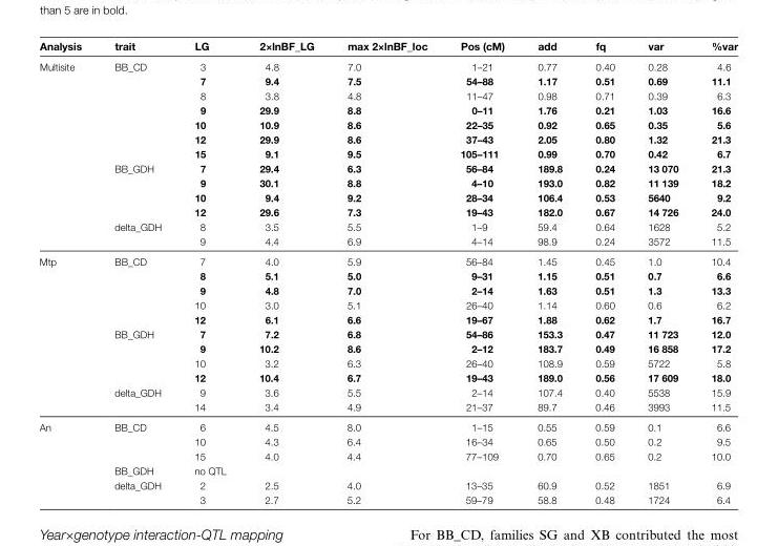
<table><thead><tr><td>Analysis</td><td>trait</td><td>LG</td><td>2×lnBF_LG</td><td>max 2×lnBF_loc</td><td>Pos (cM)</td><td>add</td><td>fq</td><td>var</td><td>%var</td></tr></thead><tbody><tr><td rowspan="13">Multisite</td><td rowspan="7">BB_CD</td><td>3</td><td>4.8</td><td>7.0</td><td>1–21</td><td>0.77</td><td>0.40</td><td>0.28</td><td>4.6</td></tr><tr><td>7</td><td>9.4</td><td>7.5</td><td>54–88</td><td>1.17</td><td>0.51</td><td>0.69</td><td>11.1</td></tr><tr><td>8</td><td>3.8</td><td>4.8</td><td>11–47</td><td>0.98</td><td>0.71</td><td>0.39</td><td>6.3</td></tr><tr><td>9</td><td>29.9</td><td>8.8</td><td>0–11</td><td>1.76</td><td>0.21</td><td>1.03</td><td>16.6</td></tr><tr><td>10</td><td>10.9</td><td>8.6</td><td>22–35</td><td>0.92</td><td>0.65</td><td>0.35</td><td>5.6</td></tr><tr><td>12</td><td>29.9</td><td>8.6</td><td>37–43</td><td>2.05</td><td>0.80</td><td>1.32</td><td>21.3</td></tr><tr><td>15</td><td>9.1</td><td>9.5</td><td>105–111</td><td>0.99</td><td>0.70</td><td>0.42</td><td>6.7</td></tr><tr><td rowspan="4">BB_GDH</td><td>7</td><td>29.4</td><td>6.3</td><td>56–84</td><td>189.8</td><td>0.24</td><td>13 070</td><td>21.3</td></tr><tr><td>9</td><td>30.1</td><td>8.8</td><td>4–10</td><td>193.0</td><td>0.82</td><td>11 139</td><td>18.2</td></tr><tr><td>10</td><td>9.4</td><td>9.2</td><td>28–34</td><td>106.4</td><td>0.53</td><td>5640</td><td>9.2</td></tr><tr><td>12</td><td>29.6</td><td>7.3</td><td>19–43</td><td>182.0</td><td>0.67</td><td>14 726</td><td>24.0</td></tr><tr><td rowspan="2">delta_GDH</td><td>8</td><td>3.5</td><td>5.5</td><td>1–9</td><td>59.4</td><td>0.64</td><td>1628</td><td>5.2</td></tr><tr><td>9</td><td>4.4</td><td>6.9</td><td>4–14</td><td>98.9</td><td>0.24</td><td>3572</td><td>11.5</td></tr><tr><td rowspan="11">Mtp</td><td rowspan="5">BB_CD</td><td>7</td><td>4.0</td><td>5.9</td><td>56–84</td><td>1.45</td><td>0.45</td><td>1.0</td><td>10.4</td></tr><tr><td>8</td><td>5.1</td><td>5.0</td><td>9–31</td><td>1.15</td><td>0.51</td><td>0.7</td><td>6.6</td></tr><tr><td>9</td><td>4.8</td><td>7.0</td><td>2–14</td><td>1.63</td><td>0.51</td><td>1.3</td><td>13.3</td></tr><tr><td>10</td><td>3.0</td><td>5.1</td><td>26–40</td><td>1.14</td><td>0.60</td><td>0.6</td><td>6.2</td></tr><tr><td>12</td><td>6.1</td><td>6.6</td><td>19–67</td><td>1.88</td><td>0.62</td><td>1.7</td><td>16.7</td></tr><tr><td rowspan="4">BB_GDH</td><td>7</td><td>7.2</td><td>6.8</td><td>54–86</td><td>153.3</td><td>0.47</td><td>11 723</td><td>12.0</td></tr><tr><td>9</td><td>10.2</td><td>8.6</td><td>2–12</td><td>183.7</td><td>0.49</td><td>16 858</td><td>17.2</td></tr><tr><td>10</td><td>3.2</td><td>6.3</td><td>26–40</td><td>108.9</td><td>0.59</td><td>5722</td><td>5.8</td></tr><tr><td>12</td><td>10.4</td><td>6.7</td><td>19–43</td><td>189.0</td><td>0.56</td><td>17 609</td><td>18.0</td></tr><tr><td rowspan="2">delta_GDH</td><td>9</td><td>3.6</td><td>5.5</td><td>2–14</td><td>107.4</td><td>0.40</td><td>5538</td><td>15.9</td></tr><tr><td>14</td><td>3.4</td><td>4.9</td><td>21–37</td><td>89.7</td><td>0.46</td><td>3993</td><td>11.5</td></tr><tr><td rowspan="6">An</td><td rowspan="3">BB_CD</td><td>6</td><td>4.5</td><td>8.0</td><td>1–15</td><td>0.55</td><td>0.59</td><td>0.1</td><td>6.6</td></tr><tr><td>10</td><td>4.3</td><td>6.4</td><td>16–34</td><td>0.65</td><td>0.50</td><td>0.2</td><td>9.5</td></tr><tr><td>15</td><td>4.0</td><td>4.4</td><td>77–109</td><td>0.70</td><td>0.65</td><td>0.2</td><td>10.0</td></tr><tr><td>BB_GDH</td><td>no QTL</td><td></td><td></td><td></td><td></td><td></td><td></td><td></td></tr><tr><td rowspan="2">delta_GDH</td><td>2</td><td>2.5</td><td>4.0</td><td>13–35</td><td>60.9</td><td>0.52</td><td>1851</td><td>6.9</td></tr><tr><td>3</td><td>2.7</td><td>5.2</td><td>59–79</td><td>58.8</td><td>0.48</td><td>1724</td><td>6.4</td></tr></tbody></table>